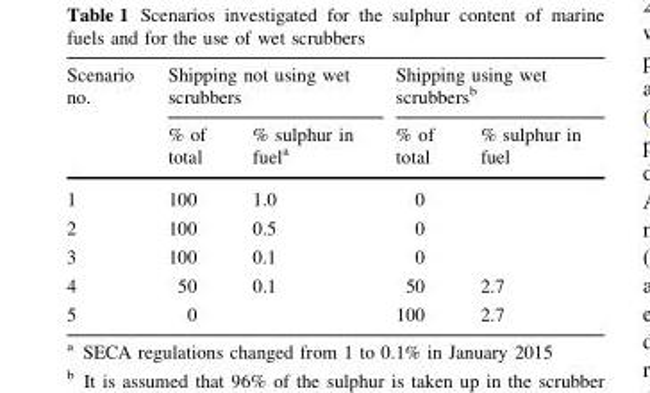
<table><thead><tr><td rowspan="2">Scenario no.</td><td colspan="2">Shipping not using wet scrubbers</td><td colspan="2">Shipping using wet scrubbers<sup>b</sup></td></tr><tr><td>% of total</td><td>% sulphur in fuel<sup>a</sup></td><td>% of total</td><td>% sulphur in fuel</td></tr></thead><tbody><tr><td>1</td><td>100</td><td>1.0</td><td>0</td><td></td></tr><tr><td>2</td><td>100</td><td>0.5</td><td>0</td><td></td></tr><tr><td>3</td><td>100</td><td>0.1</td><td>0</td><td></td></tr><tr><td>4</td><td>50</td><td>0.1</td><td>50</td><td>2.7</td></tr><tr><td>5</td><td>0</td><td></td><td>100</td><td>2.7</td></tr></tbody></table>